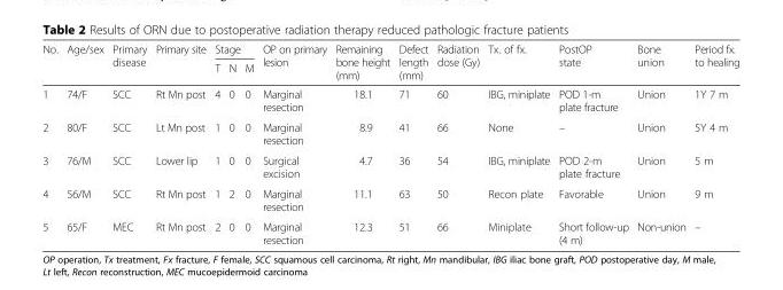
<table><thead><tr><td rowspan="2">No.</td><td rowspan="2">Age/sex</td><td rowspan="2">Primary disease</td><td rowspan="2">Primary site</td><td colspan="3">Stage</td><td rowspan="2">OP on primary lesion</td><td rowspan="2">Remaining bone height (mm)</td><td rowspan="2">Defect length (mm)</td><td rowspan="2">Radiation dose (Gy)</td><td rowspan="2">Tx. of fx.</td><td rowspan="2">PostOP state</td><td rowspan="2">Bone union</td><td rowspan="2">Period fx. to healing</td></tr><tr><td>T</td><td>N</td><td>M</td></tr></thead><tbody><tr><td>1</td><td>74/F</td><td>SCC</td><td>Rt Mn post</td><td>4</td><td>0</td><td>0</td><td>Marginal resection</td><td>18.1</td><td>71</td><td>60</td><td>IBG, miniplate</td><td>POD 1-m plate fracture</td><td>Union</td><td>1Y 7 m</td></tr><tr><td>2</td><td>80/F</td><td>SCC</td><td>Lt Mn post</td><td>1</td><td>0</td><td>0</td><td>Marginal resection</td><td>8.9</td><td>41</td><td>66</td><td>None</td><td>–</td><td>Union</td><td>5Y 4 m</td></tr><tr><td>3</td><td>76/M</td><td>SCC</td><td>Lower lip</td><td>1</td><td>0</td><td>0</td><td>Surgical excision</td><td>4.7</td><td>36</td><td>54</td><td>IBG, miniplate</td><td>POD 2-m plate fracture</td><td>Union</td><td>5 m</td></tr><tr><td>4</td><td>56/M</td><td>SCC</td><td>Rt Mn post</td><td>1</td><td>2</td><td>0</td><td>Marginal resection</td><td>11.1</td><td>63</td><td>50</td><td>Recon plate</td><td>Favorable</td><td>Union</td><td>9 m</td></tr><tr><td>5</td><td>65/F</td><td>MEC</td><td>Rt Mn post</td><td>2</td><td>0</td><td>0</td><td>Marginal resection</td><td>12.3</td><td>51</td><td>66</td><td>Miniplate</td><td>Short follow-up (4 m)</td><td>Non-union</td><td>–</td></tr></tbody></table>